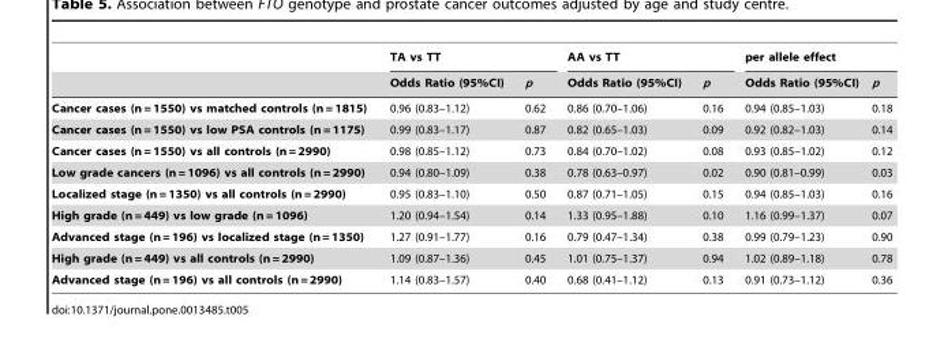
<table><thead><tr><td rowspan="2"></td><td colspan="2">TA vs TT</td><td colspan="2">AA vs TT</td><td colspan="2">per allele effect</td></tr><tr><td>Odds Ratio (95%CI)</td><td>p</td><td>Odds Ratio (95%CI)</td><td>p</td><td>Odds Ratio (95%CI)</td><td>p</td></tr></thead><tbody><tr><td>Cancer cases (n = 1550) vs matched controls (n = 1815)</td><td>0.96 (0.83–1.12)</td><td>0.62</td><td>0.86 (0.70–1.06)</td><td>0.16</td><td>0.94 (0.85–1.03)</td><td>0.18</td></tr><tr><td>Cancer cases (n = 1550) vs low PSA controls (n = 1175)</td><td>0.99 (0.83–1.17)</td><td>0.87</td><td>0.82 (0.65–1.03)</td><td>0.09</td><td>0.92 (0.82–1.03)</td><td>0.14</td></tr><tr><td>Cancer cases (n = 1550) vs all controls (n = 2990)</td><td>0.98 (0.85–1.12)</td><td>0.73</td><td>0.84 (0.70–1.02)</td><td>0.08</td><td>0.93 (0.85–1.02)</td><td>0.12</td></tr><tr><td>Low grade cancers (n = 1096) vs all controls (n = 2990)</td><td>0.94 (0.80–1.09)</td><td>0.38</td><td>0.78 (0.63–0.97)</td><td>0.02</td><td>0.90 (0.81–0.99)</td><td>0.03</td></tr><tr><td>Localized stage (n = 1350) vs all controls (n = 2990)</td><td>0.95 (0.83–1.10)</td><td>0.50</td><td>0.87 (0.71–1.05)</td><td>0.15</td><td>0.94 (0.85–1.03)</td><td>0.16</td></tr><tr><td>High grade (n = 449) vs low grade (n = 1096)</td><td>1.20 (0.94–1.54)</td><td>0.14</td><td>1.33 (0.95–1.88)</td><td>0.10</td><td>1.16 (0.99–1.37)</td><td>0.07</td></tr><tr><td>Advanced stage (n = 196) vs localized stage (n = 1350)</td><td>1.27 (0.91–1.77)</td><td>0.16</td><td>0.79 (0.47–1.34)</td><td>0.38</td><td>0.99 (0.79–1.23)</td><td>0.90</td></tr><tr><td>High grade (n = 449) vs all controls (n = 2990)</td><td>1.09 (0.87–1.36)</td><td>0.45</td><td>1.01 (0.75–1.37)</td><td>0.94</td><td>1.02 (0.89–1.18)</td><td>0.78</td></tr><tr><td>Advanced stage (n = 196) vs all controls (n = 2990)</td><td>1.14 (0.83–1.57)</td><td>0.40</td><td>0.68 (0.41–1.12)</td><td>0.13</td><td>0.91 (0.73–1.12)</td><td>0.36</td></tr></tbody></table>